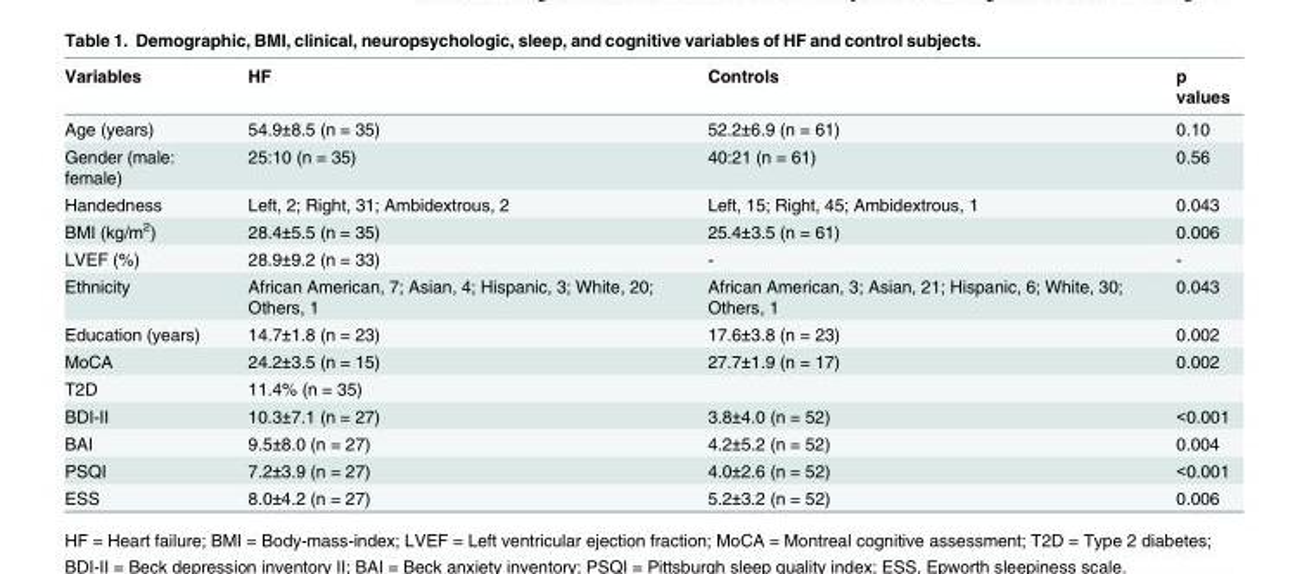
<table><thead><tr><td>Variables</td><td>HF</td><td>Controls</td><td>p values</td></tr></thead><tbody><tr><td>Age (years)</td><td>54.9±8.5 (n = 35)</td><td>52.2±6.9 (n = 61)</td><td>0.10</td></tr><tr><td>Gender (male: female)</td><td>25:10 (n = 35)</td><td>40:21 (n = 61)</td><td>0.56</td></tr><tr><td>Handedness</td><td>Left, 2; Right, 31; Ambidextrous, 2</td><td>Left, 15; Right, 45; Ambidextrous, 1</td><td>0.043</td></tr><tr><td>BMI (kg/m<sup>2</sup>)</td><td>28.4±5.5 (n = 35)</td><td>25.4±3.5 (n = 61)</td><td>0.006</td></tr><tr><td>LVEF (%)</td><td>28.9±9.2 (n = 33)</td><td>-</td><td>-</td></tr><tr><td>Ethnicity</td><td>African American, 7; Asian, 4; Hispanic, 3; White, 20; Others, 1</td><td>African American, 3; Asian, 21; Hispanic, 6; White, 30; Others, 1</td><td>0.043</td></tr><tr><td>Education (years)</td><td>14.7±1.8 (n = 23)</td><td>17.6±3.8 (n = 23)</td><td>0.002</td></tr><tr><td>MoCA</td><td>24.2±3.5 (n = 15)</td><td>27.7±1.9 (n = 17)</td><td>0.002</td></tr><tr><td>T2D</td><td>11.4% (n = 35)</td><td></td><td></td></tr><tr><td>BDI-II</td><td>10.3±7.1 (n = 27)</td><td>3.8±4.0 (n = 52)</td><td>&lt;0.001</td></tr><tr><td>BAI</td><td>9.5±8.0 (n = 27)</td><td>4.2±5.2 (n = 52)</td><td>0.004</td></tr><tr><td>PSQI</td><td>7.2±3.9 (n = 27)</td><td>4.0±2.6 (n = 52)</td><td>&lt;0.001</td></tr><tr><td>ESS</td><td>8.0±4.2 (n = 27)</td><td>5.2±3.2 (n = 52)</td><td>0.006</td></tr></tbody></table>